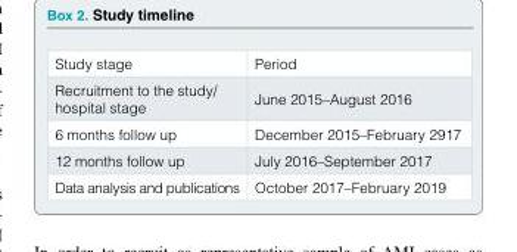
<table><tbody><tr><td>Study stage</td><td>Period</td></tr><tr><td>Recruitment to the study/ hospital stage</td><td>June 2015–August 2016</td></tr><tr><td>6 months follow up</td><td>December 2015–February 2917</td></tr><tr><td>12 months follow up</td><td>July 2016–September 2017</td></tr><tr><td>Data analysis and publications</td><td>October 2017–February 2019</td></tr></tbody></table>